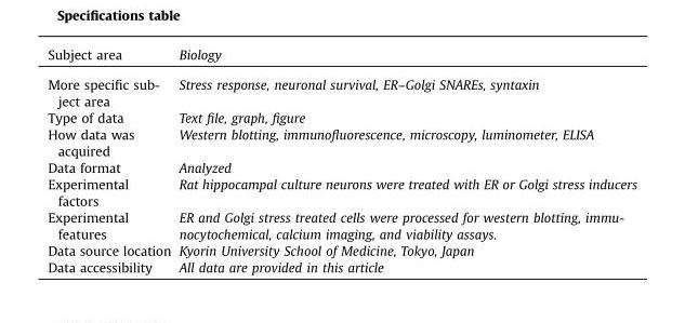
<table><tbody><tr><td>Subject area</td><td>Biology</td></tr><tr><td>More specific sub- ject area</td><td>Stress response, neuronal survival, ER–Golgi SNAREs, syntaxin</td></tr><tr><td>Type of data</td><td>Text file, graph, figure</td></tr><tr><td>How data was acquired</td><td>Western blotting, immunofluorescence, microscopy, luminometer, ELISA</td></tr><tr><td>Data format</td><td>Analyzed</td></tr><tr><td>Experimental factors</td><td>Rat hippocampal culture neurons were treated with ER or Golgi stress inducers</td></tr><tr><td>Experimental features</td><td>ER and Golgi stress treated cells were processed for western blotting, immu- nocytochemical, calcium imaging, and viability assays.</td></tr><tr><td>Data source location</td><td>Kyorin University School of Medicine, Tokyo, Japan</td></tr><tr><td>Data accessibility</td><td>All data are provided in this article</td></tr></tbody></table>